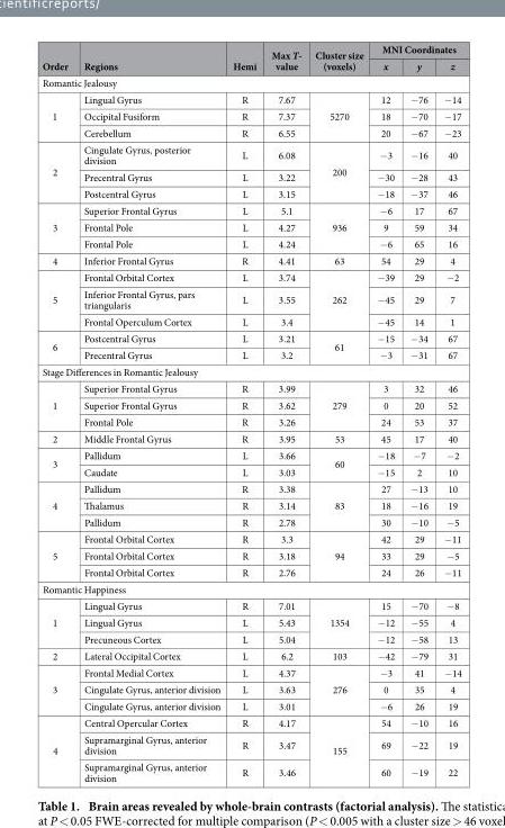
<table><thead><tr><td rowspan="2">Order</td><td rowspan="2">Regions</td><td rowspan="2">Hemi</td><td rowspan="2">Max T- value</td><td rowspan="2">Cluster size (voxels)</td><td colspan="3">MNI Coordinates</td></tr><tr><td>x</td><td>y</td><td>z</td></tr></thead><tbody><tr><td colspan="8">Romantic Jealousy</td></tr><tr><td rowspan="3">1</td><td>Lingual Gyrus</td><td>R</td><td>7.67</td><td rowspan="3">5270</td><td>12</td><td>− 76</td><td>− 14</td></tr><tr><td>Occipital Fusiform</td><td>R</td><td>7.37</td><td>18</td><td>− 70</td><td>− 17</td></tr><tr><td>Cerebellum</td><td>R</td><td>6.55</td><td>20</td><td>− 67</td><td>− 23</td></tr><tr><td rowspan="3">2</td><td>Cingulate Gyrus, posterior division</td><td>L</td><td>6.08</td><td rowspan="3">200</td><td>− 3</td><td>− 16</td><td>40</td></tr><tr><td>Precentral Gyrus</td><td>L</td><td>3.22</td><td>− 30</td><td>− 28</td><td>43</td></tr><tr><td>Postcentral Gyrus</td><td>L</td><td>3.15</td><td>− 18</td><td>− 37</td><td>46</td></tr><tr><td rowspan="3">3</td><td>Superior Frontal Gyrus</td><td>L</td><td>5.1</td><td rowspan="3">936</td><td>− 6</td><td>17</td><td>67</td></tr><tr><td>Frontal Pole</td><td>L</td><td>4.27</td><td>9</td><td>59</td><td>34</td></tr><tr><td>Frontal Pole</td><td>L</td><td>4.24</td><td>− 6</td><td>65</td><td>16</td></tr><tr><td>4</td><td>Inferior Frontal Gyrus</td><td>R</td><td>4.41</td><td>63</td><td>54</td><td>29</td><td>4</td></tr><tr><td rowspan="3">5</td><td>Frontal Orbital Cortex</td><td>L</td><td>3.74</td><td rowspan="3">262</td><td>− 39</td><td>29</td><td>− 2</td></tr><tr><td>Inferior Frontal Gyrus, pars triangularis</td><td>L</td><td>3.55</td><td>− 45</td><td>29</td><td>7</td></tr><tr><td>Frontal Operculum Cortex</td><td>L</td><td>3.4</td><td>− 45</td><td>14</td><td>1</td></tr><tr><td rowspan="2">6</td><td>Postcentral Gyrus</td><td>L</td><td>3.21</td><td rowspan="2">61</td><td>− 15</td><td>− 34</td><td>67</td></tr><tr><td>Precentral Gyrus</td><td>L</td><td>3.2</td><td>− 3</td><td>− 31</td><td>67</td></tr><tr><td colspan="8">Stage Differences in Romantic Jealousy</td></tr><tr><td rowspan="3">1</td><td>Superior Frontal Gyrus</td><td>R</td><td>3.99</td><td rowspan="3">279</td><td>3</td><td>32</td><td>46</td></tr><tr><td>Superior Frontal Gyrus</td><td>R</td><td>3.62</td><td>0</td><td>20</td><td>52</td></tr><tr><td>Frontal Pole</td><td>R</td><td>3.26</td><td>24</td><td>53</td><td>37</td></tr><tr><td>2</td><td>Middle Frontal Gyrus</td><td>R</td><td>3.95</td><td>53</td><td>45</td><td>17</td><td>40</td></tr><tr><td rowspan="2">3</td><td>Pallidum</td><td>L</td><td>3.66</td><td rowspan="2">60</td><td>− 18</td><td>− 7</td><td>− 2</td></tr><tr><td>Caudate</td><td>L</td><td>3.03</td><td>− 15</td><td>2</td><td>10</td></tr><tr><td rowspan="3">4</td><td>Pallidum</td><td>R</td><td>3.38</td><td rowspan="3">83</td><td>27</td><td>− 13</td><td>10</td></tr><tr><td>Thalamus</td><td>R</td><td>3.14</td><td>18</td><td>− 16</td><td>19</td></tr><tr><td>Pallidum</td><td>R</td><td>2.78</td><td>30</td><td>− 10</td><td>− 5</td></tr><tr><td rowspan="3">5</td><td>Frontal Orbital Cortex</td><td>R</td><td>3.3</td><td rowspan="3">94</td><td>42</td><td>29</td><td>− 11</td></tr><tr><td>Frontal Orbital Cortex</td><td>R</td><td>3.18</td><td>33</td><td>29</td><td>− 5</td></tr><tr><td>Frontal Orbital Cortex</td><td>R</td><td>2.76</td><td>24</td><td>26</td><td>− 11</td></tr><tr><td colspan="8">Romantic Happiness</td></tr><tr><td rowspan="3">1</td><td>Lingual Gyrus</td><td>R</td><td>7.01</td><td rowspan="3">1354</td><td>15</td><td>− 70</td><td>− 8</td></tr><tr><td>Lingual Gyrus</td><td>L</td><td>5.43</td><td>− 12</td><td>− 55</td><td>4</td></tr><tr><td>Precuneous Cortex</td><td>L</td><td>5.04</td><td>− 12</td><td>− 58</td><td>13</td></tr><tr><td>2</td><td>Lateral Occipital Cortex</td><td>L</td><td>6.2</td><td>103</td><td>− 42</td><td>− 79</td><td>31</td></tr><tr><td rowspan="3">3</td><td>Frontal Medial Cortex</td><td>L</td><td>4.37</td><td rowspan="3">276</td><td>− 3</td><td>41</td><td>− 14</td></tr><tr><td>Cingulate Gyrus, anterior division</td><td>L</td><td>3.63</td><td>0</td><td>35</td><td>4</td></tr><tr><td>Cingulate Gyrus, anterior division</td><td>L</td><td>3.01</td><td>− 6</td><td>26</td><td>19</td></tr><tr><td rowspan="3">4</td><td>Central Opercular Cortex</td><td>R</td><td>4.17</td><td rowspan="3">155</td><td>54</td><td>− 10</td><td>16</td></tr><tr><td>Supramarginal Gyrus, anterior division</td><td>R</td><td>3.47</td><td>69</td><td>− 22</td><td>19</td></tr><tr><td>Supramarginal Gyrus, anterior division</td><td>R</td><td>3.46</td><td>60</td><td>− 19</td><td>22</td></tr></tbody></table>